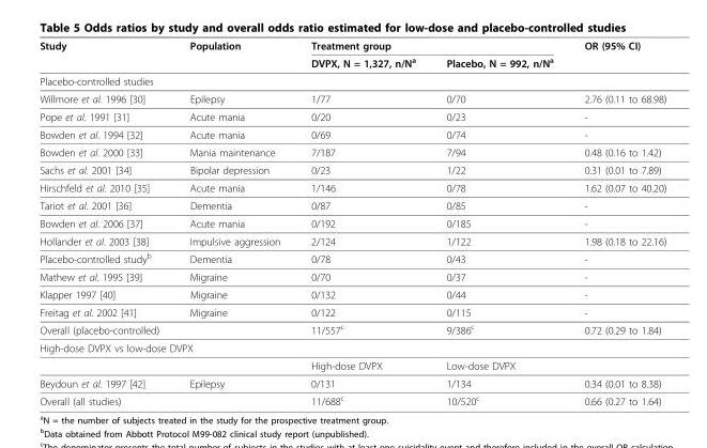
<table><thead><tr><td rowspan="2">Study</td><td rowspan="2">Population</td><td colspan="2">Treatment group</td><td rowspan="2">OR (95% CI)</td></tr><tr><td>DVPX, N = 1,327, n/Na</td><td>Placebo, N = 992, n/Na</td></tr></thead><tbody><tr><td colspan="5">Placebo-controlled studies</td></tr><tr><td>Willmore et al. 1996 [30]</td><td>Epilepsy</td><td>1/77</td><td>0/70</td><td>2.76 (0.11 to 68.98)</td></tr><tr><td>Pope et al. 1991 [31]</td><td>Acute mania</td><td>0/20</td><td>0/23</td><td>-</td></tr><tr><td>Bowden et al. 1994 [32]</td><td>Acute mania</td><td>0/69</td><td>0/74</td><td>-</td></tr><tr><td>Bowden et al. 2000 [33]</td><td>Mania maintenance</td><td>7/187</td><td>7/94</td><td>0.48 (0.16 to 1.42)</td></tr><tr><td>Sachs et al. 2001 [34]</td><td>Bipolar depression</td><td>0/23</td><td>1/22</td><td>0.31 (0.01 to 7.89)</td></tr><tr><td>Hirschfeld et al. 2010 [35]</td><td>Acute mania</td><td>1/146</td><td>0/78</td><td>1.62 (0.07 to 40.20)</td></tr><tr><td>Tariot et al. 2001 [36]</td><td>Dementia</td><td>0/87</td><td>0/85</td><td>-</td></tr><tr><td>Bowden et al. 2006 [37]</td><td>Acute mania</td><td>0/192</td><td>0/185</td><td>-</td></tr><tr><td>Hollander et al. 2003 [38]</td><td>Impulsive aggression</td><td>2/124</td><td>1/122</td><td>1.98 (0.18 to 22.16)</td></tr><tr><td>Placebo-controlled studyb</td><td>Dementia</td><td>0/78</td><td>0/43</td><td>-</td></tr><tr><td>Mathew et al. 1995 [39]</td><td>Migraine</td><td>0/70</td><td>0/37</td><td>-</td></tr><tr><td>Klapper 1997 [40]</td><td>Migraine</td><td>0/132</td><td>0/44</td><td>-</td></tr><tr><td>Freitag et al. 2002 [41]</td><td>Migraine</td><td>0/122</td><td>0/115</td><td>-</td></tr><tr><td>Overall (placebo-controlled)</td><td></td><td>11/557c</td><td>9/386c</td><td>0.72 (0.29 to 1.84)</td></tr><tr><td colspan="5">High-dose DVPX vs low-dose DVPX</td></tr><tr><td></td><td></td><td>High-dose DVPX</td><td>Low-dose DVPX</td><td></td></tr><tr><td>Beydoun et al. 1997 [42]</td><td>Epilepsy</td><td>0/131</td><td>1/134</td><td>0.34 (0.01 to 8.38)</td></tr><tr><td>Overall (all studies)</td><td></td><td>11/688c</td><td>10/520c</td><td>0.66 (0.27 to 1.64)</td></tr></tbody></table>